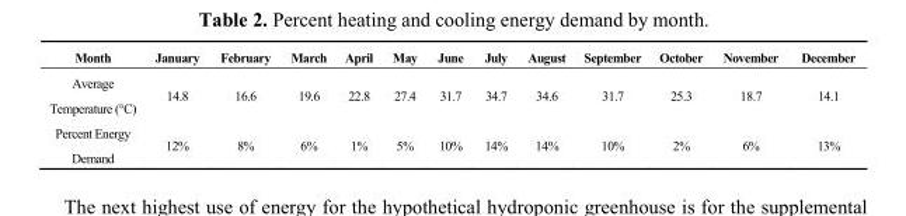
<table><thead><tr><td>Month</td><td>January</td><td>February</td><td>March</td><td>April</td><td>May</td><td>June</td><td>July</td><td>August</td><td>September</td><td>October</td><td>November</td><td>December</td></tr></thead><tbody><tr><td>Average Temperature (°C)</td><td>14.8</td><td>16.6</td><td>19.6</td><td>22.8</td><td>27.4</td><td>31.7</td><td>34.7</td><td>34.6</td><td>31.7</td><td>25.3</td><td>18.7</td><td>14.1</td></tr><tr><td>Percent Energy Demand</td><td>12%</td><td>8%</td><td>6%</td><td>1%</td><td>5%</td><td>10%</td><td>14%</td><td>14%</td><td>10%</td><td>2%</td><td>6%</td><td>13%</td></tr></tbody></table>